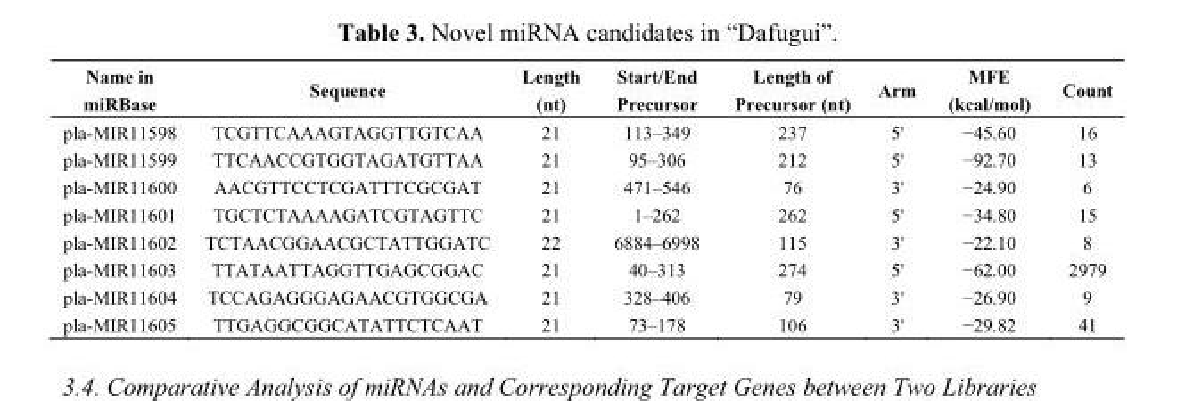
<table><thead><tr><td>Name in miRBase</td><td>Sequence</td><td>Length (nt)</td><td>Start/End Precursor</td><td>Length of Precursor (nt)</td><td>Arm</td><td>MFE (kcal/mol)</td><td>Count</td></tr></thead><tbody><tr><td>pla-MIR11598</td><td>TCGTTCAAAGTAGGTTGTCAA</td><td>21</td><td>113–349</td><td>237</td><td>5&#x27;</td><td>−45.60</td><td>16</td></tr><tr><td>pla-MIR11599</td><td>TTCAACCGTGGTAGATGTTAA</td><td>21</td><td>95–306</td><td>212</td><td>5&#x27;</td><td>−92.70</td><td>13</td></tr><tr><td>pla-MIR11600</td><td>AACGTTCCTCGATTTCGCGAT</td><td>21</td><td>471–546</td><td>76</td><td>3&#x27;</td><td>−24.90</td><td>6</td></tr><tr><td>pla-MIR11601</td><td>TGCTCTAAAAGATCGTAGTTC</td><td>21</td><td>1–262</td><td>262</td><td>5&#x27;</td><td>−34.80</td><td>15</td></tr><tr><td>pla-MIR11602</td><td>TCTAACGGAACGCTATTGGATC</td><td>22</td><td>6884–6998</td><td>115</td><td>3&#x27;</td><td>−22.10</td><td>8</td></tr><tr><td>pla-MIR11603</td><td>TTATAATTAGGTTGAGCGGAC</td><td>21</td><td>40–313</td><td>274</td><td>5&#x27;</td><td>−62.00</td><td>2979</td></tr><tr><td>pla-MIR11604</td><td>TCCAGAGGGAGAACGTGGCGA</td><td>21</td><td>328–406</td><td>79</td><td>3&#x27;</td><td>−26.90</td><td>9</td></tr><tr><td>pla-MIR11605</td><td>TTGAGGCGGCATATTCTCAAT</td><td>21</td><td>73–178</td><td>106</td><td>3&#x27;</td><td>−29.82</td><td>41</td></tr></tbody></table>